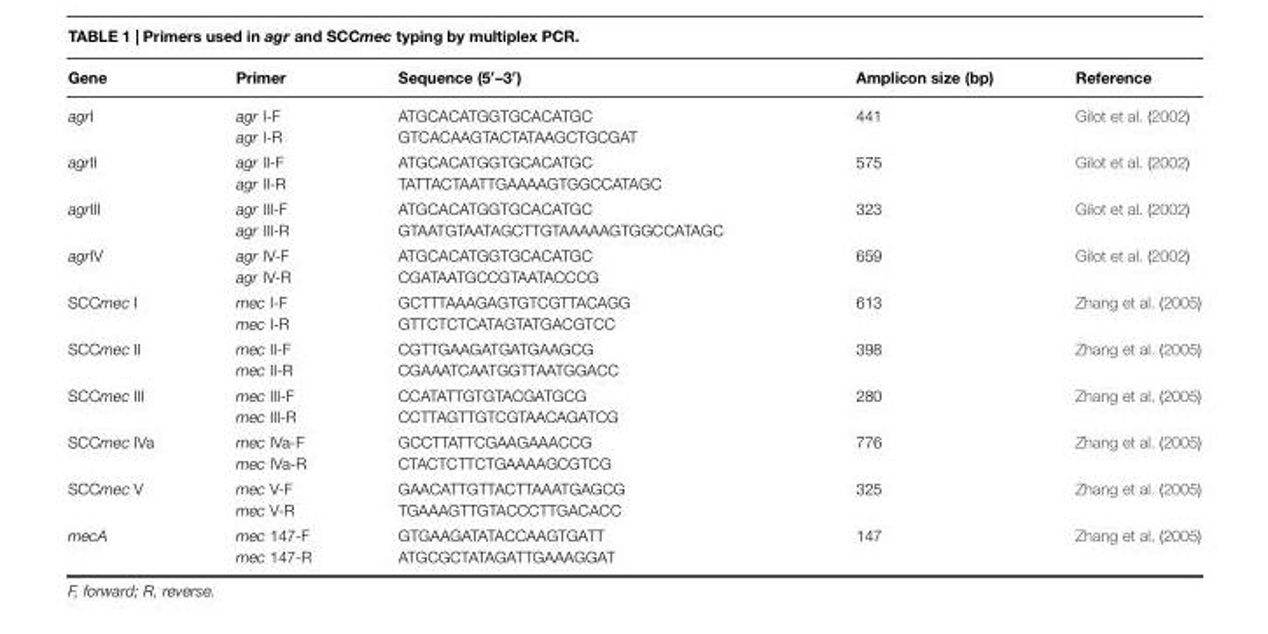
<table><thead><tr><td>Gene</td><td>Primer</td><td>Sequence (5′–3′)</td><td>Amplicon size (bp)</td><td>Reference</td></tr></thead><tbody><tr><td>agrI</td><td>agr I-F agr I-R</td><td>ATGCACATGGTGCACATGC GTCACAAGTACTATAAGCTGCGAT</td><td>441</td><td>Gilot et al. (2002)</td></tr><tr><td>agrII</td><td>agr II-F agr II-R</td><td>ATGCACATGGTGCACATGC TATTACTAATTGAAAAGTGGCCATAGC</td><td>575</td><td>Gilot et al. (2002)</td></tr><tr><td>agrIII</td><td>agr III-F agr III-R</td><td>ATGCACATGGTGCACATGC GTAATGTAATAGCTTGTAAAAAGTGGCCATAGC</td><td>323</td><td>Gilot et al. (2002)</td></tr><tr><td>agrIV</td><td>agr IV-F agr IV-R</td><td>ATGCACATGGTGCACATGC CGATAATGCCGTAATACCCG</td><td>659</td><td>Gilot et al. (2002)</td></tr><tr><td>SCCmec I</td><td>mec I-F mec I-R</td><td>GCTTTAAAGAGTGTCGTTACAGG GTTCTCTCATAGTATGACGTCC</td><td>613</td><td>Zhang et al. (2005)</td></tr><tr><td>SCCmec II</td><td>mec II-F mec II-R</td><td>CGTTGAAGATGATGAAGCG CGAAATCAATGGTTAATGGACC</td><td>398</td><td>Zhang et al. (2005)</td></tr><tr><td>SCCmec III</td><td>mec III-F mec III-R</td><td>CCATATTGTGTACGATGCG CCTTAGTTGTCGTAACAGATCG</td><td>280</td><td>Zhang et al. (2005)</td></tr><tr><td>SCCmec IVa</td><td>mec IVa-F mec IVa-R</td><td>GCCTTATTCGAAGAAACCG CTACTCTTCTGAAAAGCGTCG</td><td>776</td><td>Zhang et al. (2005)</td></tr><tr><td>SCCmec V</td><td>mec V-F mec V-R</td><td>GAACATTGTTACTTAAATGAGCG TGAAAGTTGTACCCTTGACACC</td><td>325</td><td>Zhang et al. (2005)</td></tr><tr><td>mecA</td><td>mec 147-F mec 147-R</td><td>GTGAAGATATACCAAGTGATT ATGCGCTATAGATTGAAAGGAT</td><td>147</td><td>Zhang et al. (2005)</td></tr></tbody></table>